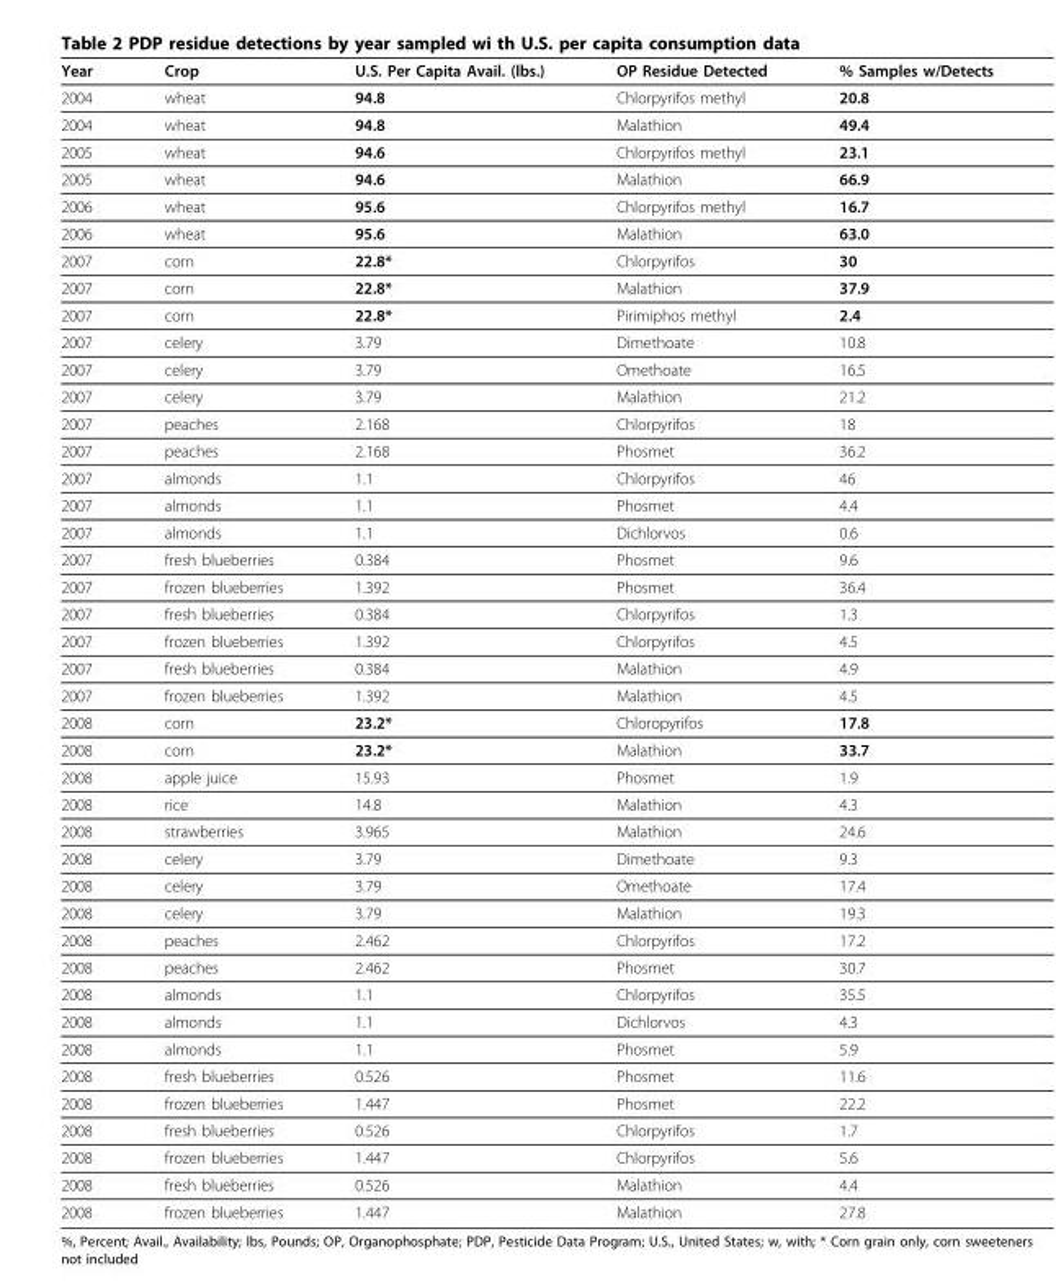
<table><thead><tr><td>Year</td><td>Crop</td><td>U.S. Per Capita Avail. (lbs.)</td><td>OP Residue Detected</td><td>% Samples w/Detects</td></tr></thead><tbody><tr><td>2004</td><td>wheat</td><td>94.8</td><td>Chlorpyrifos methyl</td><td>20.8</td></tr><tr><td>2004</td><td>wheat</td><td>94.8</td><td>Malathion</td><td>49.4</td></tr><tr><td>2005</td><td>wheat</td><td>94.6</td><td>Chlorpyrifos methyl</td><td>23.1</td></tr><tr><td>2005</td><td>wheat</td><td>94.6</td><td>Malathion</td><td>66.9</td></tr><tr><td>2006</td><td>wheat</td><td>95.6</td><td>Chlorpyrifos methyl</td><td>16.7</td></tr><tr><td>2006</td><td>wheat</td><td>95.6</td><td>Malathion</td><td>63.0</td></tr><tr><td>2007</td><td>corn</td><td>22.8*</td><td>Chlorpyrifos</td><td>30</td></tr><tr><td>2007</td><td>corn</td><td>22.8*</td><td>Malathion</td><td>37.9</td></tr><tr><td>2007</td><td>corn</td><td>22.8*</td><td>Pirimiphos methyl</td><td>2.4</td></tr><tr><td>2007</td><td>celery</td><td>3.79</td><td>Dimethoate</td><td>10.8</td></tr><tr><td>2007</td><td>celery</td><td>3.79</td><td>Omethoate</td><td>16.5</td></tr><tr><td>2007</td><td>celery</td><td>3.79</td><td>Malathion</td><td>21.2</td></tr><tr><td>2007</td><td>peaches</td><td>2.168</td><td>Chlorpyrifos</td><td>18</td></tr><tr><td>2007</td><td>peaches</td><td>2.168</td><td>Phosmet</td><td>36.2</td></tr><tr><td>2007</td><td>almonds</td><td>1.1</td><td>Chlorpyrifos</td><td>46</td></tr><tr><td>2007</td><td>almonds</td><td>1.1</td><td>Phosmet</td><td>4.4</td></tr><tr><td>2007</td><td>almonds</td><td>1.1</td><td>Dichlorvos</td><td>0.6</td></tr><tr><td>2007</td><td>fresh blueberries</td><td>0.384</td><td>Phosmet</td><td>9.6</td></tr><tr><td>2007</td><td>frozen blueberries</td><td>1.392</td><td>Phosmet</td><td>36.4</td></tr><tr><td>2007</td><td>fresh blueberries</td><td>0.384</td><td>Chlorpyrifos</td><td>1.3</td></tr><tr><td>2007</td><td>frozen blueberries</td><td>1.392</td><td>Chlorpyrifos</td><td>4.5</td></tr><tr><td>2007</td><td>fresh blueberries</td><td>0.384</td><td>Malathion</td><td>4.9</td></tr><tr><td>2007</td><td>frozen blueberries</td><td>1.392</td><td>Malathion</td><td>4.5</td></tr><tr><td>2008</td><td>corn</td><td>23.2*</td><td>Chloropyrifos</td><td>17.8</td></tr><tr><td>2008</td><td>corn</td><td>23.2*</td><td>Malathion</td><td>33.7</td></tr><tr><td>2008</td><td>apple juice</td><td>15.93</td><td>Phosmet</td><td>1.9</td></tr><tr><td>2008</td><td>rice</td><td>14.8</td><td>Malathion</td><td>4.3</td></tr><tr><td>2008</td><td>strawberries</td><td>3.965</td><td>Malathion</td><td>24.6</td></tr><tr><td>2008</td><td>celery</td><td>3.79</td><td>Dimethoate</td><td>9.3</td></tr><tr><td>2008</td><td>celery</td><td>3.79</td><td>Omethoate</td><td>17.4</td></tr><tr><td>2008</td><td>celery</td><td>3.79</td><td>Malathion</td><td>19.3</td></tr><tr><td>2008</td><td>peaches</td><td>2.462</td><td>Chlorpyrifos</td><td>17.2</td></tr><tr><td>2008</td><td>peaches</td><td>2.462</td><td>Phosmet</td><td>30.7</td></tr><tr><td>2008</td><td>almonds</td><td>1.1</td><td>Chlorpyrifos</td><td>35.5</td></tr><tr><td>2008</td><td>almonds</td><td>1.1</td><td>Dichlorvos</td><td>4.3</td></tr><tr><td>2008</td><td>almonds</td><td>1.1</td><td>Phosmet</td><td>5.9</td></tr><tr><td>2008</td><td>fresh blueberries</td><td>0.526</td><td>Phosmet</td><td>11.6</td></tr><tr><td>2008</td><td>frozen blueberries</td><td>1.447</td><td>Phosmet</td><td>22.2</td></tr><tr><td>2008</td><td>fresh blueberries</td><td>0.526</td><td>Chlorpyrifos</td><td>1.7</td></tr><tr><td>2008</td><td>frozen blueberries</td><td>1.447</td><td>Chlorpyrifos</td><td>5.6</td></tr><tr><td>2008</td><td>fresh blueberries</td><td>0.526</td><td>Malathion</td><td>4.4</td></tr><tr><td>2008</td><td>frozen blueberries</td><td>1.447</td><td>Malathion</td><td>27.8</td></tr></tbody></table>